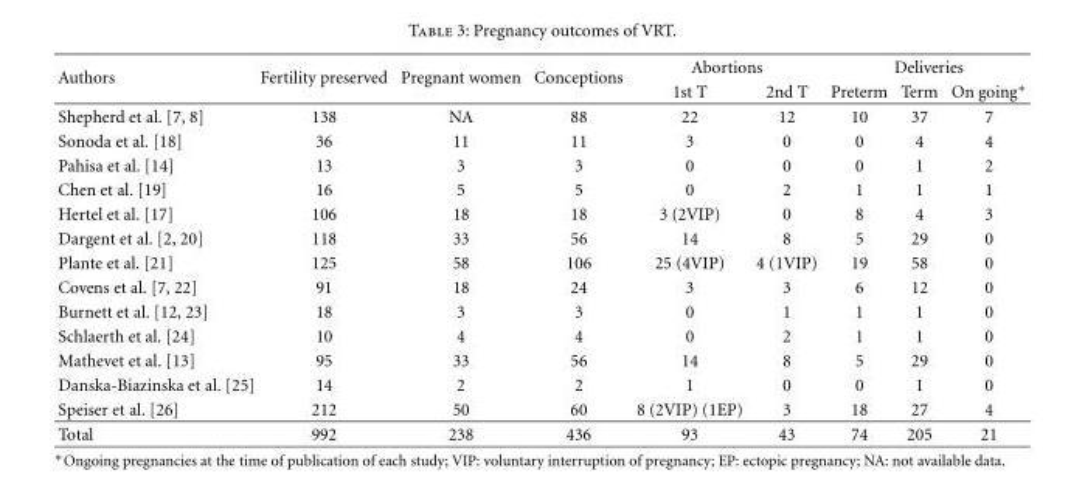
<table><thead><tr><td rowspan="2">Authors</td><td rowspan="2">Fertility preserved</td><td rowspan="2">Pregnant women</td><td rowspan="2">Conceptions</td><td colspan="2">Abortions</td><td colspan="3">Deliveries</td></tr><tr><td>1st T</td><td>2nd T</td><td>Preterm</td><td>Term</td><td>On going∗</td></tr></thead><tbody><tr><td>Shepherd et al. [7, 8]</td><td>138</td><td>NA</td><td>88</td><td>22</td><td>12</td><td>10</td><td>37</td><td>7</td></tr><tr><td>Sonoda et al. [18]</td><td>36</td><td>11</td><td>11</td><td>3</td><td>0</td><td>0</td><td>4</td><td>4</td></tr><tr><td>Pahisa et al. [14]</td><td>13</td><td>3</td><td>3</td><td>0</td><td>0</td><td>0</td><td>1</td><td>2</td></tr><tr><td>Chen et al. [19]</td><td>16</td><td>5</td><td>5</td><td>0</td><td>2</td><td>1</td><td>1</td><td>1</td></tr><tr><td>Hertel et al. [17]</td><td>106</td><td>18</td><td>18</td><td>3 (2VIP)</td><td>0</td><td>8</td><td>4</td><td>3</td></tr><tr><td>Dargent et al. [2, 20]</td><td>118</td><td>33</td><td>56</td><td>14</td><td>8</td><td>5</td><td>29</td><td>0</td></tr><tr><td>Plante et al. [21]</td><td>125</td><td>58</td><td>106</td><td>25 (4VIP)</td><td>4 (1VIP)</td><td>19</td><td>58</td><td>0</td></tr><tr><td>Covens et al. [7, 22]</td><td>91</td><td>18</td><td>24</td><td>3</td><td>3</td><td>6</td><td>12</td><td>0</td></tr><tr><td>Burnett et al. [12, 23]</td><td>18</td><td>3</td><td>3</td><td>0</td><td>1</td><td>1</td><td>1</td><td>0</td></tr><tr><td>Schlaerth et al. [24]</td><td>10</td><td>4</td><td>4</td><td>0</td><td>2</td><td>1</td><td>1</td><td>0</td></tr><tr><td>Mathevet et al. [13]</td><td>95</td><td>33</td><td>56</td><td>14</td><td>8</td><td>5</td><td>29</td><td>0</td></tr><tr><td>Danska-Biazinska et al. [25]</td><td>14</td><td>2</td><td>2</td><td>1</td><td>0</td><td>0</td><td>1</td><td>0</td></tr><tr><td>Speiser et al. [26]</td><td>212</td><td>50</td><td>60</td><td>8 (2VIP) (1EP)</td><td>3</td><td>18</td><td>27</td><td>4</td></tr><tr><td>Total</td><td>992</td><td>238</td><td>436</td><td>93</td><td>43</td><td>74</td><td>205</td><td>21</td></tr></tbody></table>